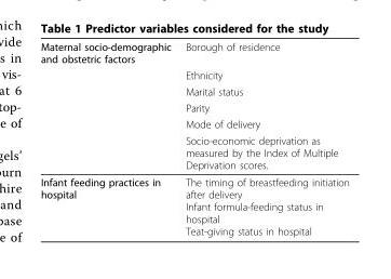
<table><thead><tr><td rowspan="6">Maternal socio-demographic and obstetric factors</td><td rowspan="6">Borough of residence Ethnicity Marital status Parity Mode of delivery Socio-economic deprivation as measured by the Index of Multiple Deprivation scores.</td></tr><tr></tr><tr></tr><tr></tr><tr></tr><tr></tr></thead><tbody><tr><td>Infant feeding practices in hospital</td><td>The timing of breastfeeding initiation after delivery Infant formula-feeding status in hospital Teat-giving status in hospital</td></tr></tbody></table>